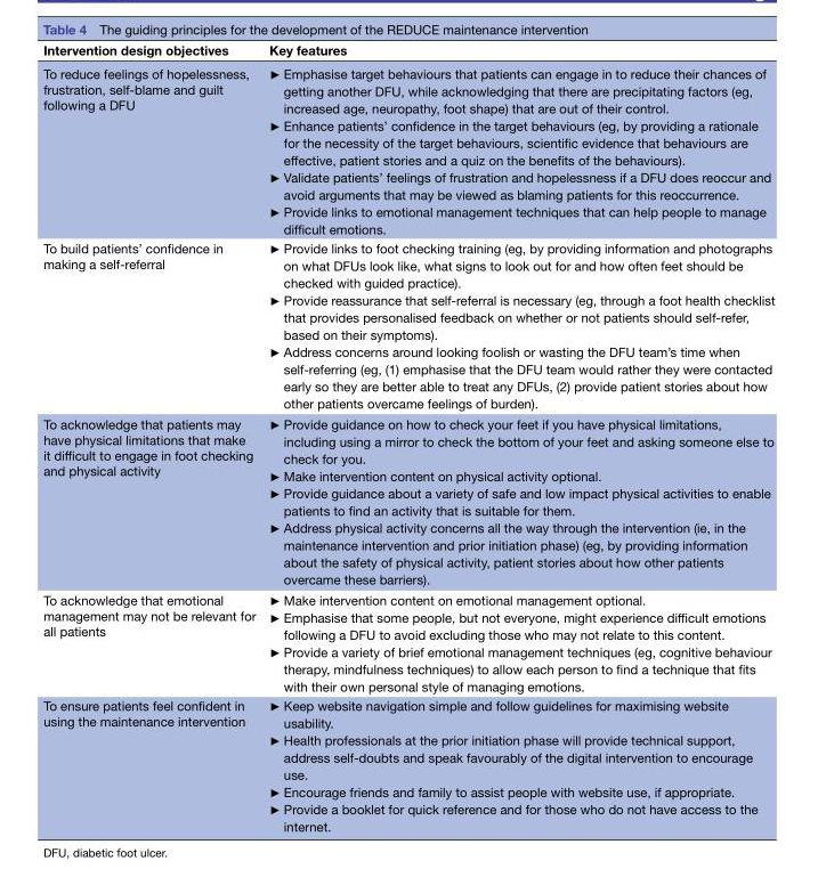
<table><thead><tr><td>Intervention design objectives</td><td>Key features</td></tr></thead><tbody><tr><td>To reduce feelings of hopelessness, frustration, self-blame and guilt following a DFU</td><td>► Emphasise target behaviours that patients can engage in to reduce their chances of getting another DFU, while acknowledging that there are precipitating factors (eg, increased age, neuropathy, foot shape) that are out of their control. ► Enhance patients’ confidence in the target behaviours (eg, by providing a rationale for the necessity of the target behaviours, scientific evidence that behaviours are effective, patient stories and a quiz on the benefits of the behaviours). ► Validate patients’ feelings of frustration and hopelessness if a DFU does reoccur and avoid arguments that may be viewed as blaming patients for this reoccurrence. ► Provide links to emotional management techniques that can help people to manage difficult emotions.</td></tr><tr><td>To build patients’ confidence in making a self-referral</td><td>► Provide links to foot checking training (eg, by providing information and photographs on what DFUs look like, what signs to look out for and how often feet should be checked with guided practice). ► Provide reassurance that self-referral is necessary (eg, through a foot health checklist that provides personalised feedback on whether or not patients should self-refer, based on their symptoms). ► Address concerns around looking foolish or wasting the DFU team’s time when self-referring (eg, (1) emphasise that the DFU team would rather they were contacted early so they are better able to treat any DFUs, (2) provide patient stories about how other patients overcame feelings of burden).</td></tr><tr><td>To acknowledge that patients may have physical limitations that make it difficult to engage in foot checking and physical activity</td><td>► Provide guidance on how to check your feet if you have physical limitations, including using a mirror to check the bottom of your feet and asking someone else to check for you. ► Make intervention content on physical activity optional. ► Provide guidance about a variety of safe and low impact physical activities to enable patients to find an activity that is suitable for them. ► Address physical activity concerns all the way through the intervention (ie, in the maintenance intervention and prior initiation phase) (eg, by providing information about the safety of physical activity, patient stories about how other patients overcame these barriers).</td></tr><tr><td>To acknowledge that emotional management may not be relevant for all patients</td><td>► Make intervention content on emotional management optional. ► Emphasise that some people, but not everyone, might experience difficult emotions following a DFU to avoid excluding those who may not relate to this content. ► Provide a variety of brief emotional management techniques (eg, cognitive behaviour therapy, mindfulness techniques) to allow each person to find a technique that fits with their own personal style of managing emotions.</td></tr><tr><td>To ensure patients feel confident in using the maintenance intervention</td><td>► Keep website navigation simple and follow guidelines for maximising website usability. ► Health professionals at the prior initiation phase will provide technical support, address self-doubts and speak favourably of the digital intervention to encourage use. ► Encourage friends and family to assist people with website use, if appropriate. ► Provide a booklet for quick reference and for those who do not have access to the internet.</td></tr></tbody></table>